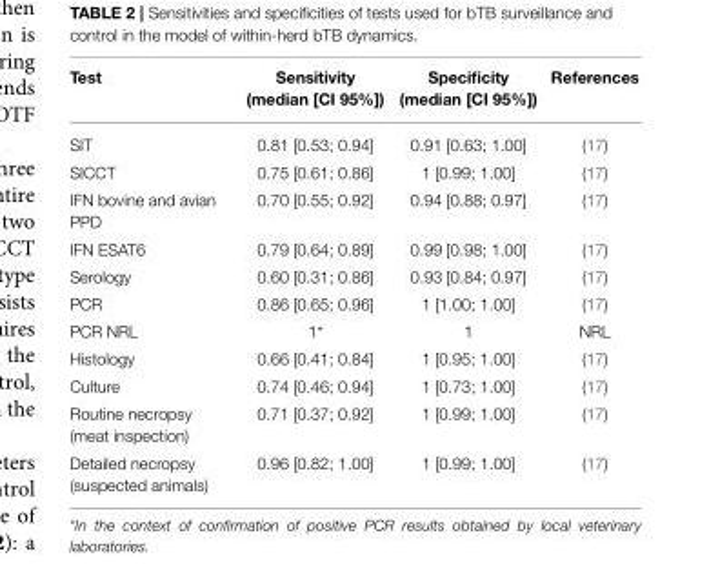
<table><thead><tr><td>Test</td><td>Sensitivity (median [CI 95%])</td><td>Specificity (median [CI 95%])</td><td>References</td></tr></thead><tbody><tr><td>SIT</td><td>0.81 [0.53; 0.94]</td><td>0.91 [0.63; 1.00]</td><td>(17)</td></tr><tr><td>SICCT</td><td>0.75 [0.61; 0.86]</td><td>1 [0.99; 1.00]</td><td>(17)</td></tr><tr><td>IFN bovine and avian PPD</td><td>0.70 [0.55; 0.92]</td><td>0.94 [0.88; 0.97]</td><td>(17)</td></tr><tr><td>IFN ESAT6</td><td>0.79 [0.64; 0.89]</td><td>0.99 [0.98; 1.00]</td><td>(17)</td></tr><tr><td>Serology</td><td>0.60 [0.31; 0.86]</td><td>0.93 [0.84; 0.97]</td><td>(17)</td></tr><tr><td>PCR</td><td>0.86 [0.65; 0.96]</td><td>1 [1.00; 1.00]</td><td>(17)</td></tr><tr><td>PCR NRL</td><td>1*</td><td>1</td><td>NRL</td></tr><tr><td>Histology</td><td>0.66 [0.41; 0.84]</td><td>1 [0.95; 1.00]</td><td>(17)</td></tr><tr><td>Culture</td><td>0.74 [0.46; 0.94]</td><td>1 [0.73; 1.00]</td><td>(17)</td></tr><tr><td>Routine necropsy (meat inspection)</td><td>0.71 [0.37; 0.92]</td><td>1 [0.99; 1.00]</td><td>(17)</td></tr><tr><td>Detailed necropsy (suspected animals)</td><td>0.96 [0.82; 1.00]</td><td>1 [0.99; 1.00]</td><td>(17)</td></tr></tbody></table>